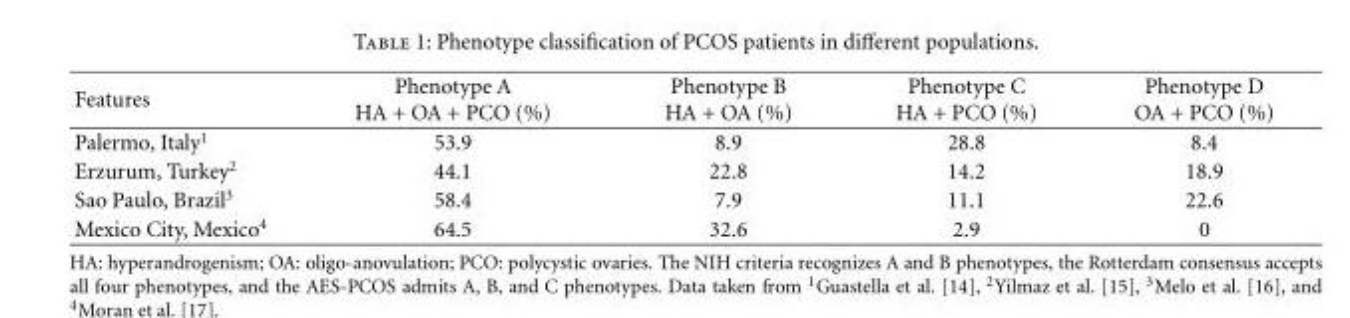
<table><thead><tr><td>Features</td><td>Phenotype A HA + OA + PCO (%)</td><td>Phenotype B HA + OA (%)</td><td>Phenotype C HA + PCO (%)</td><td>Phenotype D OA + PCO (%)</td></tr></thead><tbody><tr><td>Palermo, Italy<sup>1</sup></td><td>53.9</td><td>8.9</td><td>28.8</td><td>8.4</td></tr><tr><td>Erzurum, Turkey<sup>2</sup></td><td>44.1</td><td>22.8</td><td>14.2</td><td>18.9</td></tr><tr><td>Sao Paulo, Brazil<sup>3</sup></td><td>58.4</td><td>7.9</td><td>11.1</td><td>22.6</td></tr><tr><td>Mexico City, Mexico<sup>4</sup></td><td>64.5</td><td>32.6</td><td>2.9</td><td>0</td></tr></tbody></table>